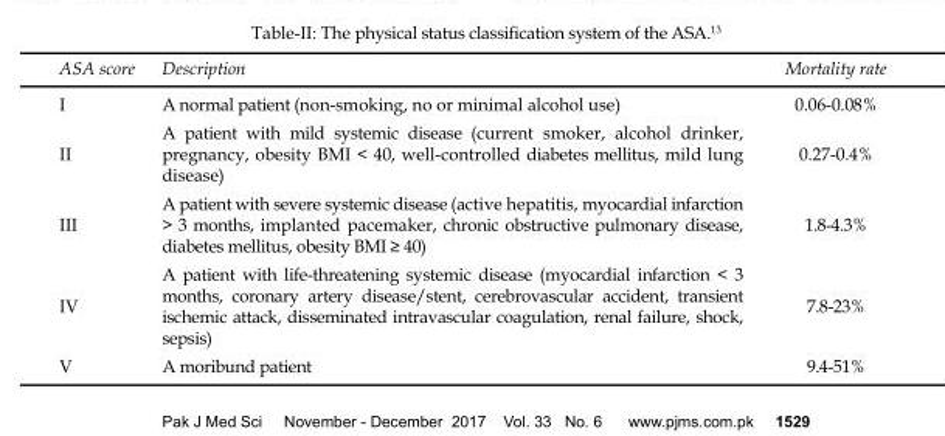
<table><thead><tr><td>ASA score</td><td>Description</td><td>Mortality rate</td></tr></thead><tbody><tr><td>I</td><td>A normal patient (non-smoking, no or minimal alcohol use)</td><td>0.06-0.08%</td></tr><tr><td>II</td><td>A patient with mild systemic disease (current smoker, alcohol drinker, pregnancy, obesity BMI &lt; 40, well-controlled diabetes mellitus, mild lung disease)</td><td>0.27-0.4%</td></tr><tr><td>III</td><td>A patient with severe systemic disease (active hepatitis, myocardial infarction &gt; 3 months, implanted pacemaker, chronic obstructive pulmonary disease, diabetes mellitus, obesity BMI ≥ 40)</td><td>1.8-4.3%</td></tr><tr><td>IV</td><td>A patient with life-threatening systemic disease (myocardial infarction &lt; 3 months, coronary artery disease/stent, cerebrovascular accident, transient ischemic attack, disseminated intravascular coagulation, renal failure, shock, sepsis)</td><td>7.8-23%</td></tr><tr><td>V</td><td>A moribund patient</td><td>9.4-51%</td></tr></tbody></table>